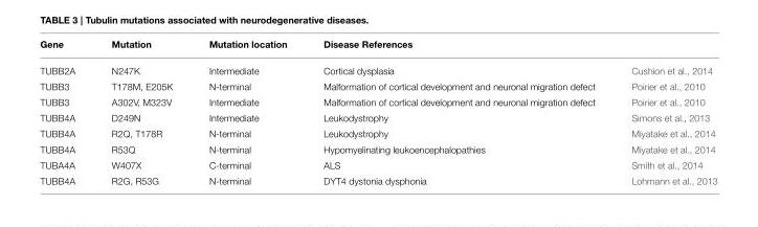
<table><thead><tr><td>Gene</td><td>Mutation</td><td>Mutation location</td><td>Disease References</td><td></td></tr></thead><tbody><tr><td>TUBB2A</td><td>N247K</td><td>Intermediate</td><td>Cortical dysplasia</td><td>Cushion et al., 2014</td></tr><tr><td>TUBB3</td><td>T178M, E205K</td><td>N-terminal</td><td>Malformation of cortical development and neuronal migration defect</td><td>Poirier et al., 2010</td></tr><tr><td>TUBB3</td><td>A302V, M323V</td><td>Intermediate</td><td>Malformation of cortical development and neuronal migration defect</td><td>Poirier et al., 2010</td></tr><tr><td>TUBB4A</td><td>D249N</td><td>Intermediate</td><td>Leukodystrophy</td><td>Simons et al., 2013</td></tr><tr><td>TUBB4A</td><td>R2Q, T178R</td><td>N-terminal</td><td>Leukodystrophy</td><td>Miyatake et al., 2014</td></tr><tr><td>TUBB4A</td><td>R53Q</td><td>N-terminal</td><td>Hypomyelinating leukoencephalopathies</td><td>Miyatake et al., 2014</td></tr><tr><td>TUBA4A</td><td>W407X</td><td>C-terminal</td><td>ALS</td><td>Smith et al., 2014</td></tr><tr><td>TUBB4A</td><td>R2G, R53G</td><td>N-terminal</td><td>DYT4 dystonia dysphonia</td><td>Lohmann et al., 2013</td></tr></tbody></table>